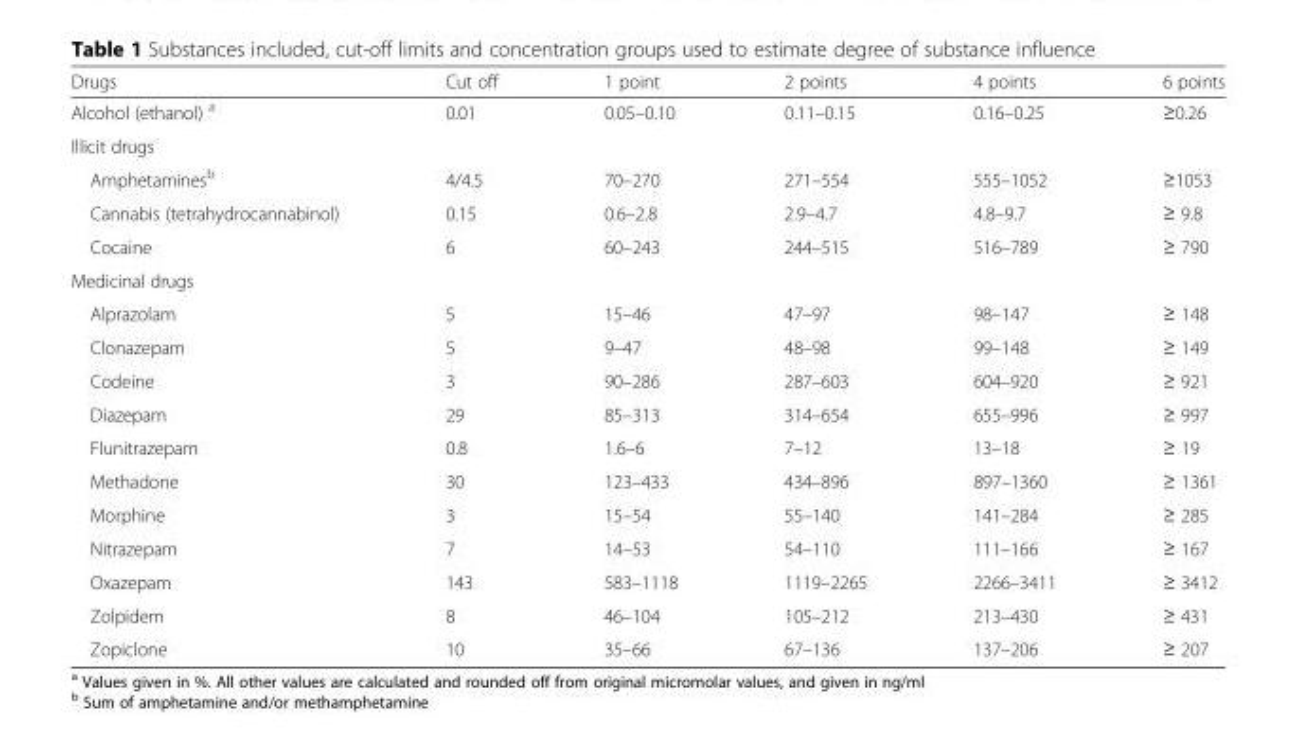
<table><thead><tr><td>Drugs</td><td>Cut off</td><td>1 point</td><td>2 points</td><td>4 points</td><td>6 points</td></tr></thead><tbody><tr><td>Alcohol (ethanol) <sup>a</sup></td><td>0.01</td><td>0.05–0.10</td><td>0.11–0.15</td><td>0.16–0.25</td><td>≥0.26</td></tr><tr><td colspan="6">Illicit drugs</td></tr><tr><td>Amphetamines<sup>b</sup></td><td>4/4.5</td><td>70–270</td><td>271–554</td><td>555–1052</td><td>≥1053</td></tr><tr><td>Cannabis (tetrahydrocannabinol)</td><td>0.15</td><td>0.6–2.8</td><td>2.9–4.7</td><td>4.8–9.7</td><td>≥ 9.8</td></tr><tr><td>Cocaine</td><td>6</td><td>60–243</td><td>244–515</td><td>516–789</td><td>≥ 790</td></tr><tr><td colspan="6">Medicinal drugs</td></tr><tr><td>Alprazolam</td><td>5</td><td>15–46</td><td>47–97</td><td>98–147</td><td>≥ 148</td></tr><tr><td>Clonazepam</td><td>5</td><td>9–47</td><td>48–98</td><td>99–148</td><td>≥ 149</td></tr><tr><td>Codeine</td><td>3</td><td>90–286</td><td>287–603</td><td>604–920</td><td>≥ 921</td></tr><tr><td>Diazepam</td><td>29</td><td>85–313</td><td>314–654</td><td>655–996</td><td>≥ 997</td></tr><tr><td>Flunitrazepam</td><td>0.8</td><td>1.6–6</td><td>7–12</td><td>13–18</td><td>≥ 19</td></tr><tr><td>Methadone</td><td>30</td><td>123–433</td><td>434–896</td><td>897–1360</td><td>≥ 1361</td></tr><tr><td>Morphine</td><td>3</td><td>15–54</td><td>55–140</td><td>141–284</td><td>≥ 285</td></tr><tr><td>Nitrazepam</td><td>7</td><td>14–53</td><td>54–110</td><td>111–166</td><td>≥ 167</td></tr><tr><td>Oxazepam</td><td>143</td><td>583–1118</td><td>1119–2265</td><td>2266–3411</td><td>≥ 3412</td></tr><tr><td>Zolpidem</td><td>8</td><td>46–104</td><td>105–212</td><td>213–430</td><td>≥ 431</td></tr><tr><td>Zopiclone</td><td>10</td><td>35–66</td><td>67–136</td><td>137–206</td><td>≥ 207</td></tr></tbody></table>